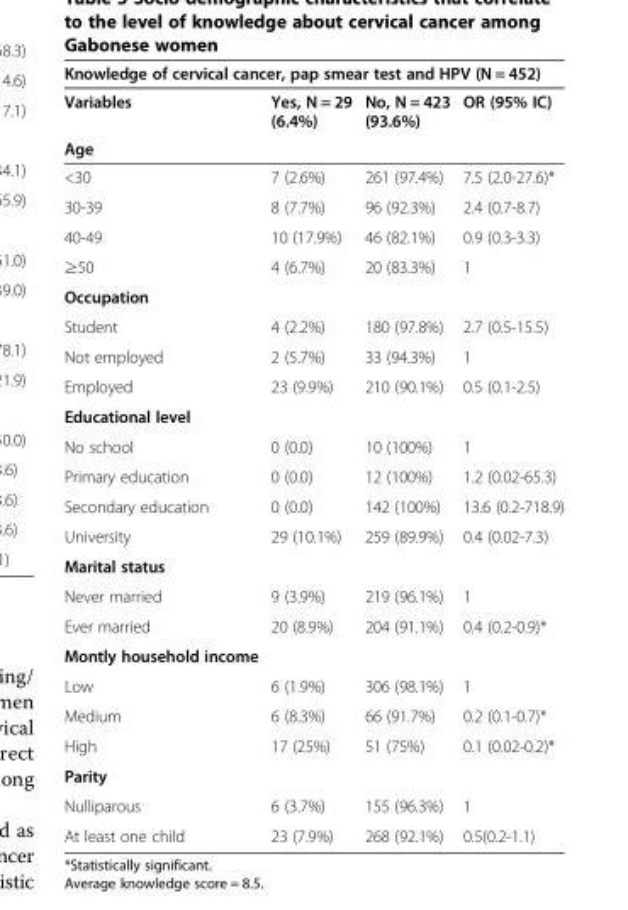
<table><thead><tr><td colspan="4">Knowledge of cervical cancer, pap smear test and HPV (N = 452)</td></tr><tr><td rowspan="2">Variables Age</td><td rowspan="2">Yes, N = 29 (6.4%)</td><td rowspan="2">No, N = 423 (93.6%)</td><td rowspan="2">OR (95% IC)</td></tr><tr></tr></thead><tbody><tr><td>&lt;30</td><td>7 (2.6%)</td><td>261 (97.4%)</td><td>7.5 (2.0-27.6)*</td></tr><tr><td>30-39</td><td>8 (7.7%)</td><td>96 (92.3%)</td><td>2.4 (0.7-8.7)</td></tr><tr><td>40-49</td><td>10 (17.9%)</td><td>46 (82.1%)</td><td>0.9 (0.3-3.3)</td></tr><tr><td>≥50</td><td>4 (6.7%)</td><td>20 (83.3%)</td><td>1</td></tr><tr><td colspan="4">Occupation</td></tr><tr><td>Student</td><td>4 (2.2%)</td><td>180 (97.8%)</td><td>2.7 (0.5-15.5)</td></tr><tr><td>Not employed</td><td>2 (5.7%)</td><td>33 (94.3%)</td><td>1</td></tr><tr><td>Employed</td><td>23 (9.9%)</td><td>210 (90.1%)</td><td>0.5 (0.1-2.5)</td></tr><tr><td colspan="4">Educational level</td></tr><tr><td>No school</td><td>0 (0.0)</td><td>10 (100%)</td><td>1</td></tr><tr><td>Primary education</td><td>0 (0.0)</td><td>12 (100%)</td><td>1.2 (0.02-65.3)</td></tr><tr><td>Secondary education</td><td>0 (0.0)</td><td>142 (100%)</td><td>13.6 (0.2-718.9)</td></tr><tr><td>University</td><td>29 (10.1%)</td><td>259 (89.9%)</td><td>0.4 (0.02-7.3)</td></tr><tr><td colspan="4">Marital status</td></tr><tr><td>Never married</td><td>9 (3.9%)</td><td>219 (96.1%)</td><td>1</td></tr><tr><td>Ever married</td><td>20 (8.9%)</td><td>204 (91.1%)</td><td>0.4 (0.2-0.9)*</td></tr><tr><td colspan="4">Montly household income</td></tr><tr><td>Low</td><td>6 (1.9%)</td><td>306 (98.1%)</td><td>1</td></tr><tr><td>Medium</td><td>6 (8.3%)</td><td>66 (91.7%)</td><td>0.2 (0.1-0.7)*</td></tr><tr><td>High</td><td>17 (25%)</td><td>51 (75%)</td><td>0.1 (0.02-0.2)*</td></tr><tr><td colspan="4">Parity</td></tr><tr><td>Nulliparous</td><td>6 (3.7%)</td><td>155 (96.3%)</td><td>1</td></tr><tr><td>At least one child</td><td>23 (7.9%)</td><td>268 (92.1%)</td><td>0.5(0.2-1.1)</td></tr></tbody></table>